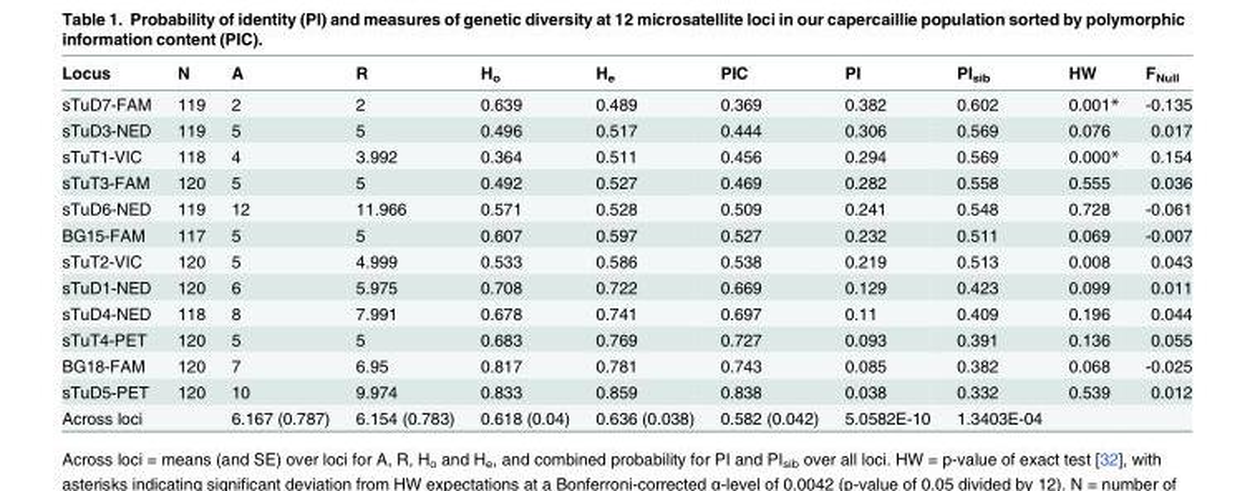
<table><thead><tr><td>Locus</td><td>N</td><td>A</td><td>R</td><td>H<sub>o</sub></td><td>H<sub>e</sub></td><td>PIC</td><td>PI</td><td>PI<sub>sib</sub></td><td>HW</td><td>F<sub>Null</sub></td></tr></thead><tbody><tr><td>sTuD7-FAM</td><td>119</td><td>2</td><td>2</td><td>0.639</td><td>0.489</td><td>0.369</td><td>0.382</td><td>0.602</td><td>0.001*</td><td>-0.135</td></tr><tr><td>sTuD3-NED</td><td>119</td><td>5</td><td>5</td><td>0.496</td><td>0.517</td><td>0.444</td><td>0.306</td><td>0.569</td><td>0.076</td><td>0.017</td></tr><tr><td>sTuT1-VIC</td><td>118</td><td>4</td><td>3.992</td><td>0.364</td><td>0.511</td><td>0.456</td><td>0.294</td><td>0.569</td><td>0.000*</td><td>0.154</td></tr><tr><td>sTuT3-FAM</td><td>120</td><td>5</td><td>5</td><td>0.492</td><td>0.527</td><td>0.469</td><td>0.282</td><td>0.558</td><td>0.555</td><td>0.036</td></tr><tr><td>sTuD6-NED</td><td>119</td><td>12</td><td>11.966</td><td>0.571</td><td>0.528</td><td>0.509</td><td>0.241</td><td>0.548</td><td>0.728</td><td>-0.061</td></tr><tr><td>BG15-FAM</td><td>117</td><td>5</td><td>5</td><td>0.607</td><td>0.597</td><td>0.527</td><td>0.232</td><td>0.511</td><td>0.069</td><td>-0.007</td></tr><tr><td>sTuT2-VIC</td><td>120</td><td>5</td><td>4.999</td><td>0.533</td><td>0.586</td><td>0.538</td><td>0.219</td><td>0.513</td><td>0.008</td><td>0.043</td></tr><tr><td>sTuD1-NED</td><td>120</td><td>6</td><td>5.975</td><td>0.708</td><td>0.722</td><td>0.669</td><td>0.129</td><td>0.423</td><td>0.099</td><td>0.011</td></tr><tr><td>sTuD4-NED</td><td>118</td><td>8</td><td>7.991</td><td>0.678</td><td>0.741</td><td>0.697</td><td>0.11</td><td>0.409</td><td>0.196</td><td>0.044</td></tr><tr><td>sTuT4-PET</td><td>120</td><td>5</td><td>5</td><td>0.683</td><td>0.769</td><td>0.727</td><td>0.093</td><td>0.391</td><td>0.136</td><td>0.055</td></tr><tr><td>BG18-FAM</td><td>120</td><td>7</td><td>6.95</td><td>0.817</td><td>0.781</td><td>0.743</td><td>0.085</td><td>0.382</td><td>0.068</td><td>-0.025</td></tr><tr><td>sTuD5-PET</td><td>120</td><td>10</td><td>9.974</td><td>0.833</td><td>0.859</td><td>0.838</td><td>0.038</td><td>0.332</td><td>0.539</td><td>0.012</td></tr><tr><td>Across loci</td><td></td><td>6.167 (0.787)</td><td>6.154 (0.783)</td><td>0.618 (0.04)</td><td>0.636 (0.038)</td><td>0.582 (0.042)</td><td>5.0582E-10</td><td>1.3403E-04</td><td></td><td></td></tr></tbody></table>